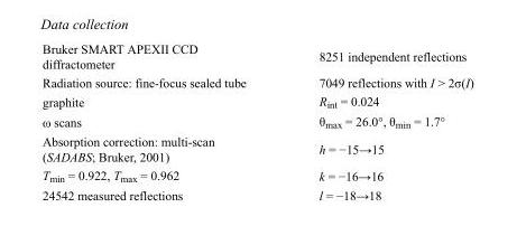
<table><tbody><tr><td>Bruker SMART APEXII CCD diffractometer</td><td>8251 independent reflections</td></tr><tr><td>Radiation source: fine-focus sealed tube</td><td>7049 reflections with I &gt; 2σ(I)</td></tr><tr><td>graphite</td><td>R<sub>int</sub> = 0.024</td></tr><tr><td>ω scans</td><td>θ<sub>max</sub> = 26.0°, θ<sub>min</sub> = 1.7°</td></tr><tr><td>Absorption correction: multi-scan (SADABS; Bruker, 2001)</td><td>h = −15→15</td></tr><tr><td>T<sub>min</sub> = 0.922, T<sub>max</sub> = 0.962</td><td>k = −16→16</td></tr><tr><td>24542 measured reflections</td><td>l = −18→18</td></tr></tbody></table>